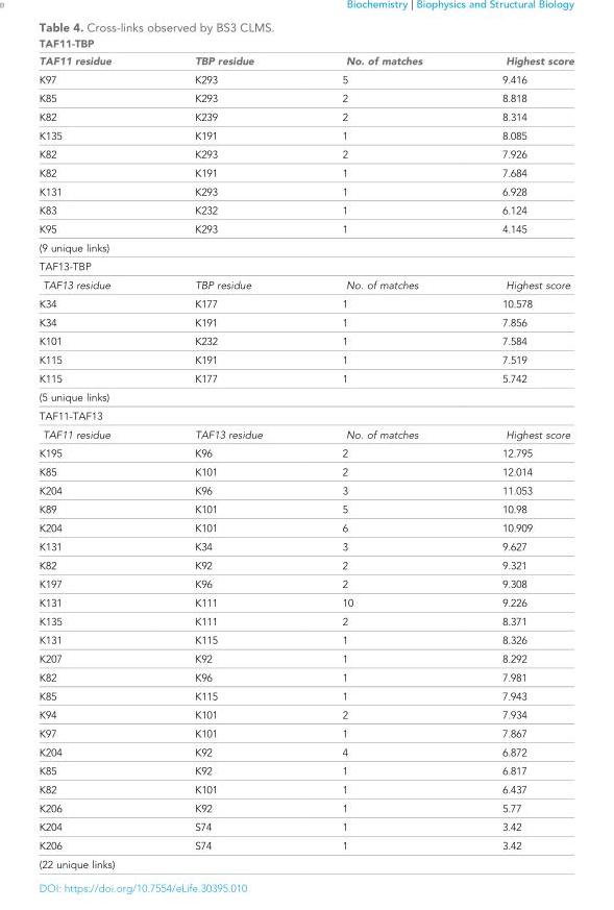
<table><thead><tr><td colspan="4">TAF11-TBP</td></tr><tr><td>TAF11 residue</td><td>TBP residue</td><td>No. of matches</td><td>Highest score</td></tr></thead><tbody><tr><td>K97</td><td>K293</td><td>5</td><td>9.416</td></tr><tr><td>K85</td><td>K293</td><td>2</td><td>8.818</td></tr><tr><td>K82</td><td>K239</td><td>2</td><td>8.314</td></tr><tr><td>K135</td><td>K191</td><td>1</td><td>8.085</td></tr><tr><td>K82</td><td>K293</td><td>2</td><td>7.926</td></tr><tr><td>K82</td><td>K191</td><td>1</td><td>7.684</td></tr><tr><td>K131</td><td>K293</td><td>1</td><td>6.928</td></tr><tr><td>K83</td><td>K232</td><td>1</td><td>6.124</td></tr><tr><td>K95</td><td>K293</td><td>1</td><td>4.145</td></tr><tr><td colspan="4">(9 unique links)</td></tr><tr><td colspan="4">TAF13-TBP</td></tr><tr><td>TAF13 residue</td><td>TBP residue</td><td>No. of matches</td><td>Highest score</td></tr><tr><td>K34</td><td>K177</td><td>1</td><td>10.578</td></tr><tr><td>K34</td><td>K191</td><td>1</td><td>7.856</td></tr><tr><td>K101</td><td>K232</td><td>1</td><td>7.584</td></tr><tr><td>K115</td><td>K191</td><td>1</td><td>7.519</td></tr><tr><td>K115</td><td>K177</td><td>1</td><td>5.742</td></tr><tr><td colspan="4">(5 unique links)</td></tr><tr><td colspan="4">TAF11-TAF13</td></tr><tr><td>TAF11 residue</td><td>TAF13 residue</td><td>No. of matches</td><td>Highest score</td></tr><tr><td>K195</td><td>K96</td><td>2</td><td>12.795</td></tr><tr><td>K85</td><td>K101</td><td>2</td><td>12.014</td></tr><tr><td>K204</td><td>K96</td><td>3</td><td>11.053</td></tr><tr><td>K89</td><td>K101</td><td>5</td><td>10.98</td></tr><tr><td>K204</td><td>K101</td><td>6</td><td>10.909</td></tr><tr><td>K131</td><td>K34</td><td>3</td><td>9.627</td></tr><tr><td>K82</td><td>K92</td><td>2</td><td>9.321</td></tr><tr><td>K197</td><td>K96</td><td>2</td><td>9.308</td></tr><tr><td>K131</td><td>K111</td><td>10</td><td>9.226</td></tr><tr><td>K135</td><td>K111</td><td>2</td><td>8.371</td></tr><tr><td>K131</td><td>K115</td><td>1</td><td>8.326</td></tr><tr><td>K207</td><td>K92</td><td>1</td><td>8.292</td></tr><tr><td>K82</td><td>K96</td><td>1</td><td>7.981</td></tr><tr><td>K85</td><td>K115</td><td>1</td><td>7.943</td></tr><tr><td>K94</td><td>K101</td><td>2</td><td>7.934</td></tr><tr><td>K97</td><td>K101</td><td>1</td><td>7.867</td></tr><tr><td>K204</td><td>K92</td><td>4</td><td>6.872</td></tr><tr><td>K85</td><td>K92</td><td>1</td><td>6.817</td></tr><tr><td>K82</td><td>K101</td><td>1</td><td>6.437</td></tr><tr><td>K206</td><td>K92</td><td>1</td><td>5.77</td></tr><tr><td>K204</td><td>S74</td><td>1</td><td>3.42</td></tr><tr><td>K206</td><td>S74</td><td>1</td><td>3.42</td></tr><tr><td>(22 unique links)</td><td></td><td></td><td></td></tr></tbody></table>